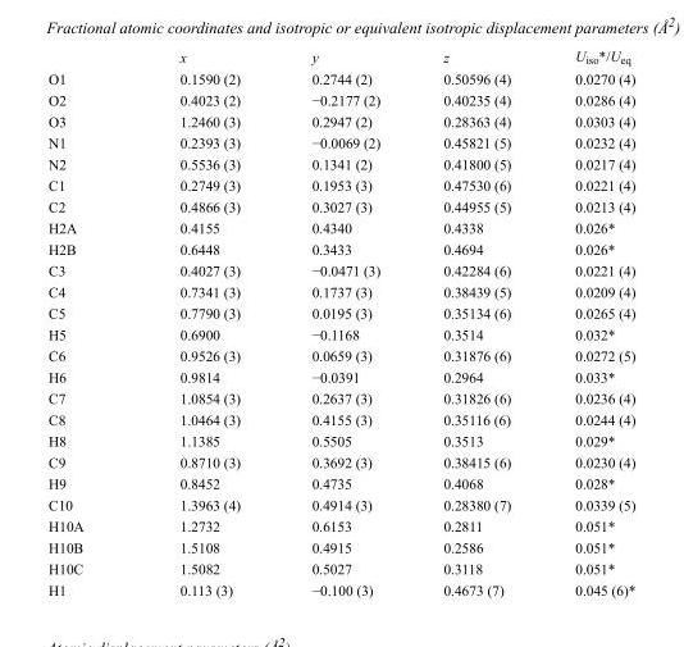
<table><thead><tr><td></td><td>x</td><td>y</td><td>z</td><td>U<sub>iso</sub>*/U<sub>eq</sub></td></tr></thead><tbody><tr><td>O1</td><td>0.1590 (2)</td><td>0.2744 (2)</td><td>0.50596 (4)</td><td>0.0270 (4)</td></tr><tr><td>O2</td><td>0.4023 (2)</td><td>−0.2177 (2)</td><td>0.40235 (4)</td><td>0.0286 (4)</td></tr><tr><td>O3</td><td>1.2460 (3)</td><td>0.2947 (2)</td><td>0.28363 (4)</td><td>0.0303 (4)</td></tr><tr><td>N1</td><td>0.2393 (3)</td><td>−0.0069 (2)</td><td>0.45821 (5)</td><td>0.0232 (4)</td></tr><tr><td>N2</td><td>0.5536 (3)</td><td>0.1341 (2)</td><td>0.41800 (5)</td><td>0.0217 (4)</td></tr><tr><td>C1</td><td>0.2749 (3)</td><td>0.1953 (3)</td><td>0.47530 (6)</td><td>0.0221 (4)</td></tr><tr><td>C2</td><td>0.4866 (3)</td><td>0.3027 (3)</td><td>0.44955 (5)</td><td>0.0213 (4)</td></tr><tr><td>H2A</td><td>0.4155</td><td>0.4340</td><td>0.4338</td><td>0.026*</td></tr><tr><td>H2B</td><td>0.6448</td><td>0.3433</td><td>0.4694</td><td>0.026*</td></tr><tr><td>C3</td><td>0.4027 (3)</td><td>−0.0471 (3)</td><td>0.42284 (6)</td><td>0.0221 (4)</td></tr><tr><td>C4</td><td>0.7341 (3)</td><td>0.1737 (3)</td><td>0.38439 (5)</td><td>0.0209 (4)</td></tr><tr><td>C5</td><td>0.7790 (3)</td><td>0.0195 (3)</td><td>0.35134 (6)</td><td>0.0265 (4)</td></tr><tr><td>H5</td><td>0.6900</td><td>−0.1168</td><td>0.3514</td><td>0.032*</td></tr><tr><td>C6</td><td>0.9526 (3)</td><td>0.0659 (3)</td><td>0.31876 (6)</td><td>0.0272 (5)</td></tr><tr><td>H6</td><td>0.9814</td><td>−0.0391</td><td>0.2964</td><td>0.033*</td></tr><tr><td>C7</td><td>1.0854 (3)</td><td>0.2637 (3)</td><td>0.31826 (6)</td><td>0.0236 (4)</td></tr><tr><td>C8</td><td>1.0464 (3)</td><td>0.4155 (3)</td><td>0.35116 (6)</td><td>0.0244 (4)</td></tr><tr><td>H8</td><td>1.1385</td><td>0.5505</td><td>0.3513</td><td>0.029*</td></tr><tr><td>C9</td><td>0.8710 (3)</td><td>0.3692 (3)</td><td>0.38415 (6)</td><td>0.0230 (4)</td></tr><tr><td>H9</td><td>0.8452</td><td>0.4735</td><td>0.4068</td><td>0.028*</td></tr><tr><td>C10</td><td>1.3963 (4)</td><td>0.4914 (3)</td><td>0.28380 (7)</td><td>0.0339 (5)</td></tr><tr><td>H10A</td><td>1.2732</td><td>0.6153</td><td>0.2811</td><td>0.051*</td></tr><tr><td>H10B</td><td>1.5108</td><td>0.4915</td><td>0.2586</td><td>0.051*</td></tr><tr><td>H10C</td><td>1.5082</td><td>0.5027</td><td>0.3118</td><td>0.051*</td></tr><tr><td>H1</td><td>0.113 (3)</td><td>−0.100 (3)</td><td>0.4673 (7)</td><td>0.045 (6)*</td></tr></tbody></table>